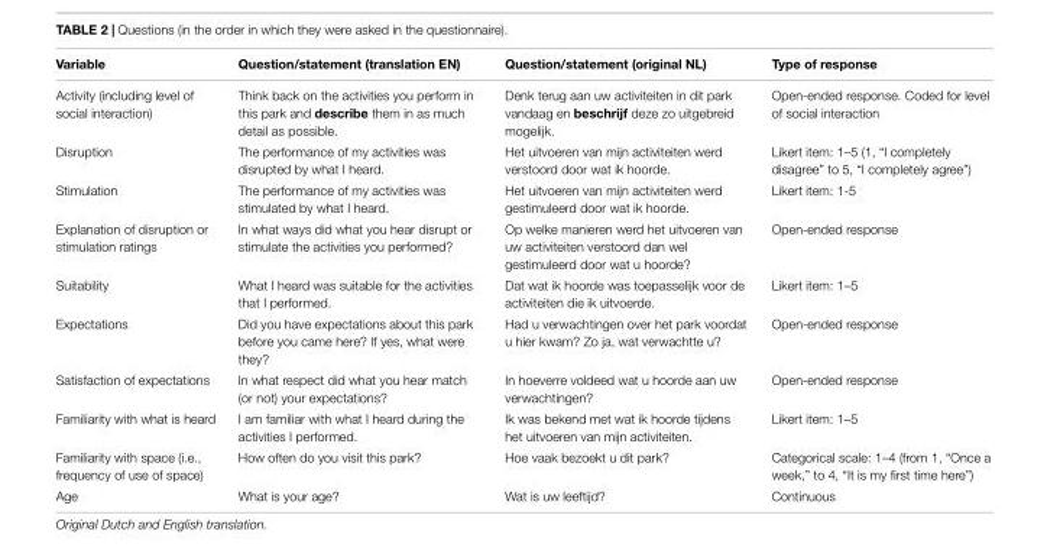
<table><thead><tr><td>Variable</td><td>Question/statement (translation EN)</td><td>Question/statement (original NL)</td><td>Type of response</td></tr></thead><tbody><tr><td>Activity (including level of social interaction)</td><td>Think back on the activities you perform in this park and describe them in as much detail as possible.</td><td>Denk terug aan uw activiteiten in dit park vandaag en beschrijf deze zo uitgebreid mogelijk.</td><td>Open-ended response. Coded for level of social interaction</td></tr><tr><td>Disruption</td><td>The performance of my activities was disrupted by what I heard.</td><td>Het uitvoeren van mijn activiteiten werd verstoord door wat ik hoorde.</td><td>Likert item: 1–5 (1, “I completely disagree” to 5, “I completely agree”)</td></tr><tr><td>Stimulation</td><td>The performance of my activities was stimulated by what I heard.</td><td>Het uitvoeren van mijn activiteiten werd gestimuleerd door wat ik hoorde.</td><td>Likert item: 1-5</td></tr><tr><td>Explanation of disruption or stimulation ratings</td><td>In what ways did what you hear disrupt or stimulate the activities you performed?</td><td>Op welke manieren werd het uitvoeren van uw activiteiten verstoord dan wel gestimuleerd door wat u hoorde?</td><td>Open-ended response</td></tr><tr><td>Suitability</td><td>What I heard was suitable for the activities that I performed.</td><td>Dat wat ik hoorde was toepasselijk voor de activiteiten die ik uitvoerde.</td><td>Likert item: 1–5</td></tr><tr><td>Expectations</td><td>Did you have expectations about this park before you came here? If yes, what were they?</td><td>Had u verwachtingen over het park voordat u hier kwam? Zo ja, wat verwachtte u?</td><td>Open-ended response</td></tr><tr><td>Satisfaction of expectations</td><td>In what respect did what you hear match (or not) your expectations?</td><td>In hoeverre voldeed wat u hoorde aan uw verwachtingen?</td><td>Open-ended response</td></tr><tr><td>Familiarity with what is heard</td><td>I am familiar with what I heard during the activities I performed.</td><td>Ik was bekend met wat ik hoorde tijdens het uitvoeren van mijn activiteiten.</td><td>Likert item: 1–5</td></tr><tr><td>Familiarity with space (i.e., frequency of use of space)</td><td>How often do you visit this park?</td><td>Hoe vaak bezoekt u dit park?</td><td>Categorical scale: 1–4 (from 1, “Once a week,” to 4, “It is my first time here”)</td></tr><tr><td>Age</td><td>What is your age?</td><td>Wat is uw leeftijd?</td><td>Continuous</td></tr></tbody></table>